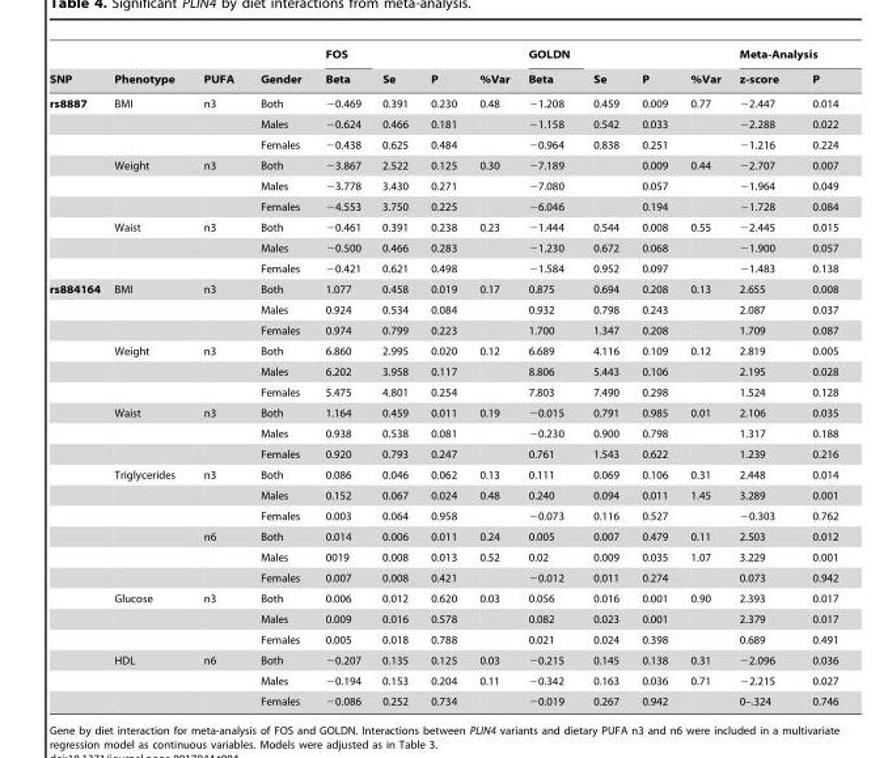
<table><thead><tr><td rowspan="2">SNP</td><td rowspan="2">Phenotype</td><td rowspan="2">PUFA</td><td rowspan="2">Gender</td><td rowspan="2">FOS Beta</td><td rowspan="2">Se</td><td rowspan="2">P</td><td rowspan="2">%Var</td><td rowspan="2">GOLDN Beta</td><td rowspan="2">Se</td><td rowspan="2">P</td><td rowspan="2">%Var</td><td colspan="2">Meta-Analysis</td></tr><tr><td>z-score</td><td>P</td></tr></thead><tbody><tr><td rowspan="9">rs8887</td><td>BMI</td><td>n3</td><td>Both</td><td>−0.469</td><td>0.391</td><td>0.230</td><td>0.48</td><td>−1.208</td><td>0.459</td><td>0.009</td><td>0.77</td><td>−2.447</td><td>0.014</td></tr><tr><td></td><td></td><td>Males</td><td>−0.624</td><td>0.466</td><td>0.181</td><td></td><td>−1.158</td><td>0.542</td><td>0.033</td><td></td><td>−2.288</td><td>0.022</td></tr><tr><td></td><td></td><td>Females</td><td>−0.438</td><td>0.625</td><td>0.484</td><td></td><td>−0.964</td><td>0.838</td><td>0.251</td><td></td><td>−1.216</td><td>0.224</td></tr><tr><td>Weight</td><td>n3</td><td>Both</td><td>−3.867</td><td>2.522</td><td>0.125</td><td>0.30</td><td>−7.189</td><td></td><td>0.009</td><td>0.44</td><td>−2.707</td><td>0.007</td></tr><tr><td></td><td></td><td>Males</td><td>−3.778</td><td>3.430</td><td>0.271</td><td></td><td>−7.080</td><td></td><td>0.057</td><td></td><td>−1.964</td><td>0.049</td></tr><tr><td></td><td></td><td>Females</td><td>−4.553</td><td>3.750</td><td>0.225</td><td></td><td>−6.046</td><td></td><td>0.194</td><td></td><td>−1.728</td><td>0.084</td></tr><tr><td>Waist</td><td>n3</td><td>Both</td><td>−0.461</td><td>0.391</td><td>0.238</td><td>0.23</td><td>−1.444</td><td>0.544</td><td>0.008</td><td>0.55</td><td>−2.445</td><td>0.015</td></tr><tr><td></td><td></td><td>Males</td><td>−0.500</td><td>0.466</td><td>0.283</td><td></td><td>−1.230</td><td>0.672</td><td>0.068</td><td></td><td>−1.900</td><td>0.057</td></tr><tr><td></td><td></td><td>Females</td><td>−0.421</td><td>0.621</td><td>0.498</td><td></td><td>−1.584</td><td>0.952</td><td>0.097</td><td></td><td>−1.483</td><td>0.138</td></tr><tr><td rowspan="21">rs884164</td><td>BMI</td><td>n3</td><td>Both</td><td>1.077</td><td>0.458</td><td>0.019</td><td>0.17</td><td>0.875</td><td>0.694</td><td>0.208</td><td>0.13</td><td>2.655</td><td>0.008</td></tr><tr><td></td><td></td><td>Males</td><td>0.924</td><td>0.534</td><td>0.084</td><td></td><td>0.932</td><td>0.798</td><td>0.243</td><td></td><td>2.087</td><td>0.037</td></tr><tr><td></td><td></td><td>Females</td><td>0.974</td><td>0.799</td><td>0.223</td><td></td><td>1.700</td><td>1.347</td><td>0.208</td><td></td><td>1.709</td><td>0.087</td></tr><tr><td>Weight</td><td>n3</td><td>Both</td><td>6.860</td><td>2.995</td><td>0.020</td><td>0.12</td><td>6.689</td><td>4.116</td><td>0.109</td><td>0.12</td><td>2.819</td><td>0.005</td></tr><tr><td></td><td></td><td>Males</td><td>6.202</td><td>3.958</td><td>0.117</td><td></td><td>8.806</td><td>5.443</td><td>0.106</td><td></td><td>2.195</td><td>0.028</td></tr><tr><td></td><td></td><td>Females</td><td>5.475</td><td>4.801</td><td>0.254</td><td></td><td>7.803</td><td>7.490</td><td>0.298</td><td></td><td>1.524</td><td>0.128</td></tr><tr><td>Waist</td><td>n3</td><td>Both</td><td>1.164</td><td>0.459</td><td>0.011</td><td>0.19</td><td>−0.015</td><td>0.791</td><td>0.985</td><td>0.01</td><td>2.106</td><td>0.035</td></tr><tr><td></td><td></td><td>Males</td><td>0.938</td><td>0.538</td><td>0.081</td><td></td><td>−0.230</td><td>0.900</td><td>0.798</td><td></td><td>1.317</td><td>0.188</td></tr><tr><td></td><td></td><td>Females</td><td>0.920</td><td>0.793</td><td>0.247</td><td></td><td>0.761</td><td>1.543</td><td>0.622</td><td></td><td>1.239</td><td>0.216</td></tr><tr><td>Triglycerides</td><td>n3</td><td>Both</td><td>0.086</td><td>0.046</td><td>0.062</td><td>0.13</td><td>0.111</td><td>0.069</td><td>0.106</td><td>0.31</td><td>2.448</td><td>0.014</td></tr><tr><td></td><td></td><td>Males</td><td>0.152</td><td>0.067</td><td>0.024</td><td>0.48</td><td>0.240</td><td>0.094</td><td>0.011</td><td>1.45</td><td>3.289</td><td>0.001</td></tr><tr><td></td><td></td><td>Females</td><td>0.003</td><td>0.064</td><td>0.958</td><td></td><td>−0.073</td><td>0.116</td><td>0.527</td><td></td><td>−0.303</td><td>0.762</td></tr><tr><td></td><td>n6</td><td>Both</td><td>0.014</td><td>0.006</td><td>0.011</td><td>0.24</td><td>0.005</td><td>0.007</td><td>0.479</td><td>0.11</td><td>2.503</td><td>0.012</td></tr><tr><td></td><td></td><td>Males</td><td>0019</td><td>0.008</td><td>0.013</td><td>0.52</td><td>0.02</td><td>0.009</td><td>0.035</td><td>1.07</td><td>3.229</td><td>0.001</td></tr><tr><td></td><td></td><td>Females</td><td>0.007</td><td>0.008</td><td>0.421</td><td></td><td>−0.012</td><td>0.011</td><td>0.274</td><td></td><td>0.073</td><td>0.942</td></tr><tr><td>Glucose</td><td>n3</td><td>Both</td><td>0.006</td><td>0.012</td><td>0.620</td><td>0.03</td><td>0.056</td><td>0.016</td><td>0.001</td><td>0.90</td><td>2.393</td><td>0.017</td></tr><tr><td></td><td></td><td>Males</td><td>0.009</td><td>0.016</td><td>0.578</td><td></td><td>0.082</td><td>0.023</td><td>0.001</td><td></td><td>2.379</td><td>0.017</td></tr><tr><td></td><td></td><td>Females</td><td>0.005</td><td>0.018</td><td>0.788</td><td></td><td>0.021</td><td>0.024</td><td>0.398</td><td></td><td>0.689</td><td>0.491</td></tr><tr><td>HDL</td><td>n6</td><td>Both</td><td>−0.207</td><td>0.135</td><td>0.125</td><td>0.03</td><td>−0.215</td><td>0.145</td><td>0.138</td><td>0.31</td><td>−2.096</td><td>0.036</td></tr><tr><td></td><td></td><td>Males</td><td>−0.194</td><td>0.153</td><td>0.204</td><td>0.11</td><td>−0.342</td><td>0.163</td><td>0.036</td><td>0.71</td><td>−2.215</td><td>0.027</td></tr><tr><td></td><td></td><td>Females</td><td>−0.086</td><td>0.252</td><td>0.734</td><td></td><td>−0.019</td><td>0.267</td><td>0.942</td><td></td><td>0–.324</td><td>0.746</td></tr></tbody></table>